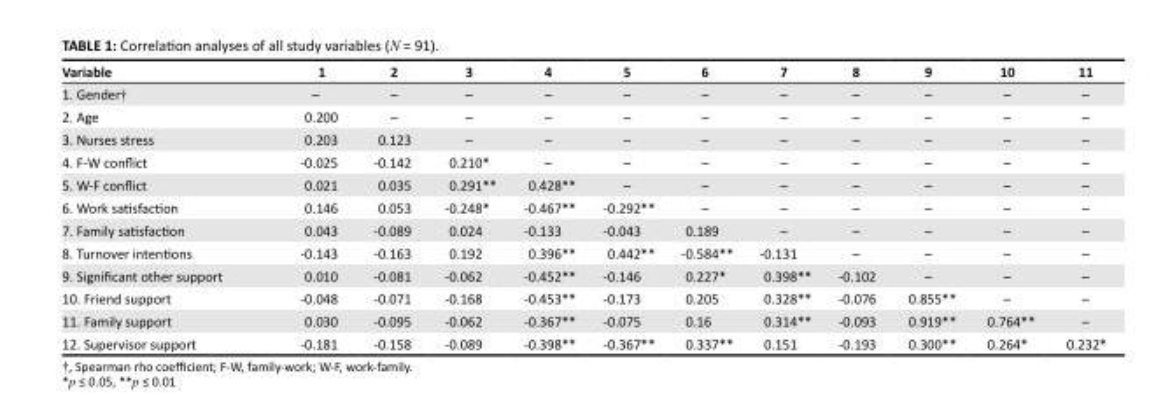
<table><thead><tr><td>Variable</td><td>1</td><td>2</td><td>3</td><td>4</td><td>5</td><td>6</td><td>7</td><td>8</td><td>9</td><td>10</td><td>11</td></tr></thead><tbody><tr><td>1. Gender†</td><td>–</td><td>–</td><td>–</td><td>–</td><td>–</td><td>–</td><td>–</td><td>–</td><td>–</td><td>–</td><td>–</td></tr><tr><td>2. Age</td><td>0.200</td><td>–</td><td>–</td><td>–</td><td>–</td><td>–</td><td>–</td><td>–</td><td>–</td><td>–</td><td>–</td></tr><tr><td>3. Nurses stress</td><td>0.203</td><td>0.123</td><td>–</td><td>–</td><td>–</td><td>–</td><td>–</td><td>–</td><td>–</td><td>–</td><td>–</td></tr><tr><td>4. F-W conflict</td><td>-0.025</td><td>-0.142</td><td>0.210*</td><td>–</td><td>–</td><td>–</td><td>–</td><td>–</td><td>–</td><td>–</td><td>–</td></tr><tr><td>5. W-F conflict</td><td>0.021</td><td>0.035</td><td>0.291**</td><td>0.428**</td><td>–</td><td>–</td><td>–</td><td>–</td><td>–</td><td>–</td><td>–</td></tr><tr><td>6. Work satisfaction</td><td>0.146</td><td>0.053</td><td>-0.248*</td><td>-0.467**</td><td>-0.292**</td><td>–</td><td>–</td><td>–</td><td>–</td><td>–</td><td>–</td></tr><tr><td>7. Family satisfaction</td><td>0.043</td><td>-0.089</td><td>0.024</td><td>-0.133</td><td>-0.043</td><td>0.189</td><td>–</td><td>–</td><td>–</td><td>–</td><td>–</td></tr><tr><td>8. Turnover intentions</td><td>-0.143</td><td>-0.163</td><td>0.192</td><td>0.396**</td><td>0.442**</td><td>-0.584**</td><td>-0.131</td><td>–</td><td>–</td><td>–</td><td>–</td></tr><tr><td>9. Significant other support</td><td>0.010</td><td>-0.081</td><td>-0.062</td><td>-0.452**</td><td>-0.146</td><td>0.227*</td><td>0.398**</td><td>-0.102</td><td>–</td><td>–</td><td>–</td></tr><tr><td>10. Friend support</td><td>-0.048</td><td>-0.071</td><td>-0.168</td><td>-0.453**</td><td>-0.173</td><td>0.205</td><td>0.328**</td><td>-0.076</td><td>0.855**</td><td>–</td><td>–</td></tr><tr><td>11. Family support</td><td>0.030</td><td>-0.095</td><td>-0.062</td><td>-0.367**</td><td>-0.075</td><td>0.16</td><td>0.314**</td><td>-0.093</td><td>0.919**</td><td>0.764**</td><td>–</td></tr><tr><td>12. Supervisor support</td><td>-0.181</td><td>-0.158</td><td>-0.089</td><td>-0.398**</td><td>-0.367**</td><td>0.337**</td><td>0.151</td><td>-0.193</td><td>0.300**</td><td>0.264*</td><td>0.232*</td></tr></tbody></table>